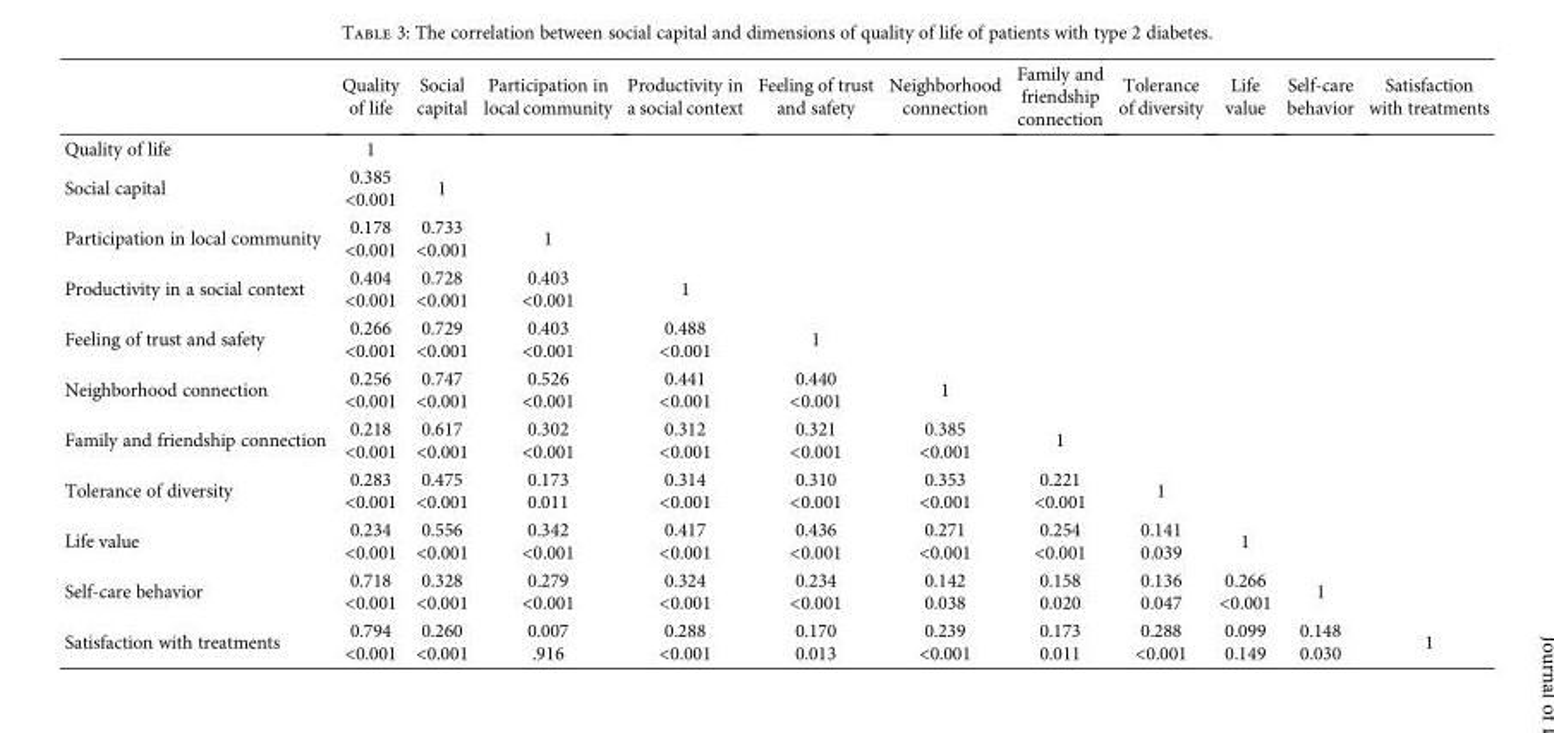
<table><thead><tr><td></td><td>Quality of life</td><td>Social capital</td><td>Participation in local community</td><td>Productivity in a social context</td><td>Feeling of trust and safety</td><td>Neighborhood connection</td><td>Family and friendship connection</td><td>Tolerance of diversity</td><td>Life value</td><td>Self-care behavior</td><td>Satisfaction with treatments</td></tr></thead><tbody><tr><td>Quality of life</td><td>1</td><td></td><td></td><td></td><td></td><td></td><td></td><td></td><td></td><td></td><td></td></tr><tr><td>Social capital</td><td>0.385 &lt;0.001</td><td>1</td><td></td><td></td><td></td><td></td><td></td><td></td><td></td><td></td><td></td></tr><tr><td>Participation in local community</td><td>0.178 &lt;0.001</td><td>0.733 &lt;0.001</td><td>1</td><td></td><td></td><td></td><td></td><td></td><td></td><td></td><td></td></tr><tr><td>Productivity in a social context</td><td>0.404 &lt;0.001</td><td>0.728 &lt;0.001</td><td>0.403 &lt;0.001</td><td>1</td><td></td><td></td><td></td><td></td><td></td><td></td><td></td></tr><tr><td>Feeling of trust and safety</td><td>0.266 &lt;0.001</td><td>0.729 &lt;0.001</td><td>0.403 &lt;0.001</td><td>0.488 &lt;0.001</td><td>1</td><td></td><td></td><td></td><td></td><td></td><td></td></tr><tr><td>Neighborhood connection</td><td>0.256 &lt;0.001</td><td>0.747 &lt;0.001</td><td>0.526 &lt;0.001</td><td>0.441 &lt;0.001</td><td>0.440 &lt;0.001</td><td>1</td><td></td><td></td><td></td><td></td><td></td></tr><tr><td>Family and friendship connection</td><td>0.218 &lt;0.001</td><td>0.617 &lt;0.001</td><td>0.302 &lt;0.001</td><td>0.312 &lt;0.001</td><td>0.321 &lt;0.001</td><td>0.385 &lt;0.001</td><td>1</td><td></td><td></td><td></td><td></td></tr><tr><td>Tolerance of diversity</td><td>0.283 &lt;0.001</td><td>0.475 &lt;0.001</td><td>0.173 0.011</td><td>0.314 &lt;0.001</td><td>0.310 &lt;0.001</td><td>0.353 &lt;0.001</td><td>0.221 &lt;0.001</td><td>1</td><td></td><td></td><td></td></tr><tr><td>Life value</td><td>0.234 &lt;0.001</td><td>0.556 &lt;0.001</td><td>0.342 &lt;0.001</td><td>0.417 &lt;0.001</td><td>0.436 &lt;0.001</td><td>0.271 &lt;0.001</td><td>0.254 &lt;0.001</td><td>0.141 0.039</td><td>1</td><td></td><td></td></tr><tr><td>Self-care behavior</td><td>0.718 &lt;0.001</td><td>0.328 &lt;0.001</td><td>0.279 &lt;0.001</td><td>0.324 &lt;0.001</td><td>0.234 &lt;0.001</td><td>0.142 0.038</td><td>0.158 0.020</td><td>0.136 0.047</td><td>0.266 &lt;0.001</td><td>1</td><td></td></tr><tr><td>Satisfaction with treatments</td><td>0.794 &lt;0.001</td><td>0.260 &lt;0.001</td><td>0.007 .916</td><td>0.288 &lt;0.001</td><td>0.170 0.013</td><td>0.239 &lt;0.001</td><td>0.173 0.011</td><td>0.288 &lt;0.001</td><td>0.099 0.149</td><td>0.148 0.030</td><td>1</td></tr></tbody></table>